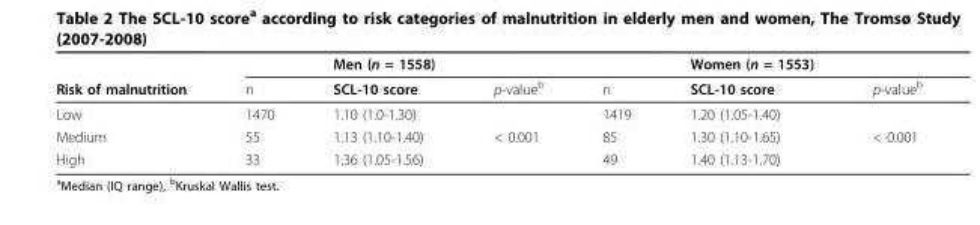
<table><thead><tr><td rowspan="2">Risk of malnutrition</td><td rowspan="2">n</td><td rowspan="2">Men (n = 1558) SCL-10 score</td><td rowspan="2">p-value<sup>b</sup></td><td rowspan="2">n</td><td rowspan="2">Women (n = 1553) SCL-10 score</td><td rowspan="2">p-value<sup>b</sup></td></tr><tr></tr></thead><tbody><tr><td>Low</td><td>1470</td><td>1.10 (1.0-1.30)</td><td></td><td>1419</td><td>1.20 (1.05-1.40)</td><td></td></tr><tr><td>Medium</td><td>55</td><td>1.13 (1.10-1.40)</td><td>&lt; 0.001</td><td>85</td><td>1.30 (1.10-1.65)</td><td>&lt; 0.001</td></tr><tr><td>High</td><td>33</td><td>1.36 (1.05-1.56)</td><td></td><td>49</td><td>1.40 (1.13-1.70)</td><td></td></tr></tbody></table>